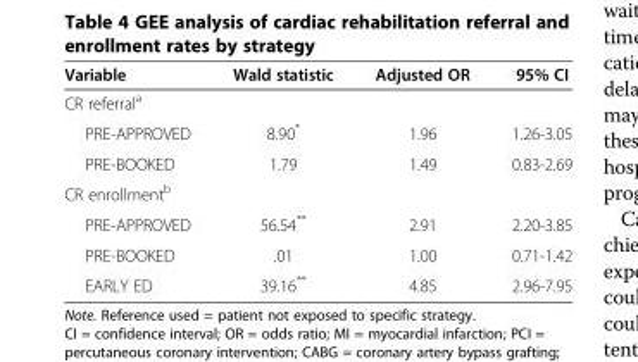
<table><thead><tr><td>Variable</td><td>Wald statistic</td><td>Adjusted OR</td><td>95% CI</td></tr></thead><tbody><tr><td colspan="4">CR referral<sup>a</sup></td></tr><tr><td>PRE-APPROVED</td><td>8.90*</td><td>1.96</td><td>1.26-3.05</td></tr><tr><td>PRE-BOOKED</td><td>1.79</td><td>1.49</td><td>0.83-2.69</td></tr><tr><td colspan="4">CR enrollment<sup>b</sup></td></tr><tr><td>PRE-APPROVED</td><td>56.54**</td><td>2.91</td><td>2.20-3.85</td></tr><tr><td>PRE-BOOKED</td><td>.01</td><td>1.00</td><td>0.71-1.42</td></tr><tr><td>EARLY ED</td><td>39.16**</td><td>4.85</td><td>2.96-7.95</td></tr></tbody></table>